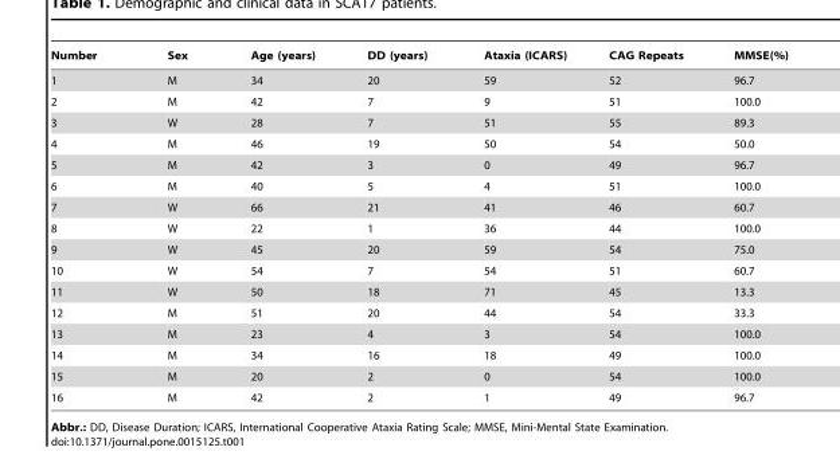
<table><thead><tr><td>Number</td><td>Sex</td><td>Age (years)</td><td>DD (years)</td><td>Ataxia (ICARS)</td><td>CAG Repeats</td><td>MMSE(%)</td></tr></thead><tbody><tr><td>1</td><td>M</td><td>34</td><td>20</td><td>59</td><td>52</td><td>96.7</td></tr><tr><td>2</td><td>M</td><td>42</td><td>7</td><td>9</td><td>51</td><td>100.0</td></tr><tr><td>3</td><td>W</td><td>28</td><td>7</td><td>51</td><td>55</td><td>89.3</td></tr><tr><td>4</td><td>M</td><td>46</td><td>19</td><td>50</td><td>54</td><td>50.0</td></tr><tr><td>5</td><td>M</td><td>42</td><td>3</td><td>0</td><td>49</td><td>96.7</td></tr><tr><td>6</td><td>M</td><td>40</td><td>5</td><td>4</td><td>51</td><td>100.0</td></tr><tr><td>7</td><td>W</td><td>66</td><td>21</td><td>41</td><td>46</td><td>60.7</td></tr><tr><td>8</td><td>W</td><td>22</td><td>1</td><td>36</td><td>44</td><td>100.0</td></tr><tr><td>9</td><td>W</td><td>45</td><td>20</td><td>59</td><td>54</td><td>75.0</td></tr><tr><td>10</td><td>W</td><td>54</td><td>7</td><td>54</td><td>51</td><td>60.7</td></tr><tr><td>11</td><td>W</td><td>50</td><td>18</td><td>71</td><td>45</td><td>13.3</td></tr><tr><td>12</td><td>M</td><td>51</td><td>20</td><td>44</td><td>54</td><td>33.3</td></tr><tr><td>13</td><td>M</td><td>23</td><td>4</td><td>3</td><td>54</td><td>100.0</td></tr><tr><td>14</td><td>M</td><td>34</td><td>16</td><td>18</td><td>49</td><td>100.0</td></tr><tr><td>15</td><td>M</td><td>20</td><td>2</td><td>0</td><td>54</td><td>100.0</td></tr><tr><td>16</td><td>M</td><td>42</td><td>2</td><td>1</td><td>49</td><td>96.7</td></tr></tbody></table>